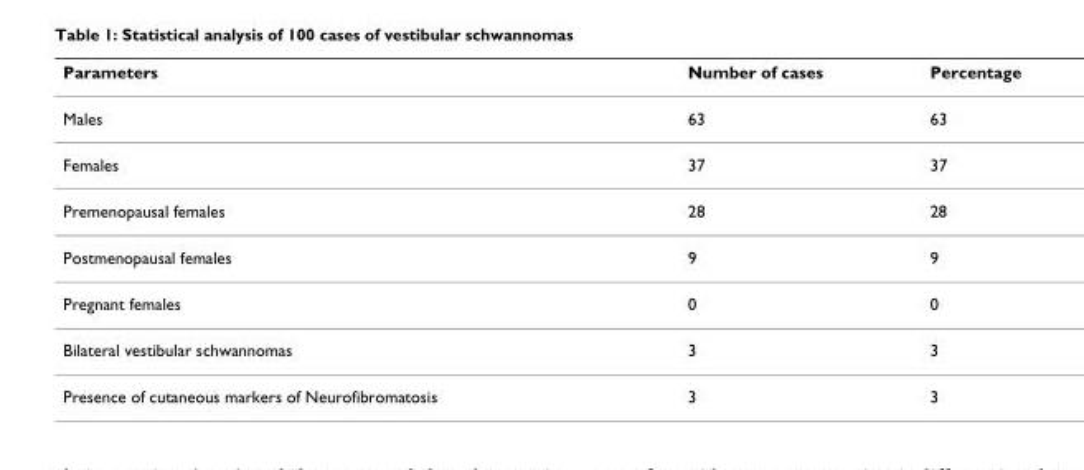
<table><thead><tr><td>Parameters</td><td>Number of cases</td><td>Percentage</td></tr></thead><tbody><tr><td>Males</td><td>63</td><td>63</td></tr><tr><td>Females</td><td>37</td><td>37</td></tr><tr><td>Premenopausal females</td><td>28</td><td>28</td></tr><tr><td>Postmenopausal females</td><td>9</td><td>9</td></tr><tr><td>Pregnant females</td><td>0</td><td>0</td></tr><tr><td>Bilateral vestibular schwannomas</td><td>3</td><td>3</td></tr><tr><td>Presence of cutaneous markers of Neurofibromatosis</td><td>3</td><td>3</td></tr></tbody></table>